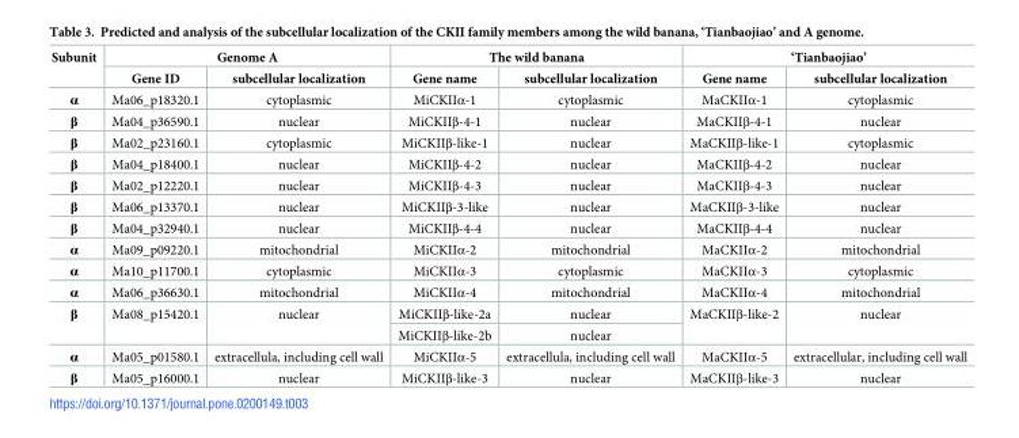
<table><thead><tr><td rowspan="2">Subunit</td><td colspan="2">Genome A</td><td colspan="2">The wild banana</td><td colspan="2">‘Tianbaojiao’</td></tr><tr><td>Gene ID</td><td>subcellular localization</td><td>Gene name</td><td>subcellular localization</td><td>Gene name</td><td>subcellular localization</td></tr></thead><tbody><tr><td>α</td><td>Ma06_p18320.1</td><td>cytoplasmic</td><td>MiCKIIα-1</td><td>cytoplasmic</td><td>MaCKIIα-1</td><td>cytoplasmic</td></tr><tr><td>β</td><td>Ma04_p36590.1</td><td>nuclear</td><td>MiCKIIβ-4-1</td><td>nuclear</td><td>MaCKIIβ-4-1</td><td>nuclear</td></tr><tr><td>β</td><td>Ma02_p23160.1</td><td>cytoplasmic</td><td>MiCKIIβ-like-1</td><td>nuclear</td><td>MaCKIIβ-like-1</td><td>cytoplasmic</td></tr><tr><td>β</td><td>Ma04_p18400.1</td><td>nuclear</td><td>MiCKIIβ-4-2</td><td>nuclear</td><td>MaCKIIβ-4-2</td><td>nuclear</td></tr><tr><td>β</td><td>Ma02_p12220.1</td><td>nuclear</td><td>MiCKIIβ-4-3</td><td>nuclear</td><td>MaCKIIβ-4-3</td><td>nuclear</td></tr><tr><td>β</td><td>Ma06_p13370.1</td><td>nuclear</td><td>MiCKIIβ-3-like</td><td>nuclear</td><td>MaCKIIβ-3-like</td><td>nuclear</td></tr><tr><td>β</td><td>Ma04_p32940.1</td><td>nuclear</td><td>MiCKIIβ-4-4</td><td>nuclear</td><td>MaCKIIβ-4-4</td><td>nuclear</td></tr><tr><td>α</td><td>Ma09_p09220.1</td><td>mitochondrial</td><td>MiCKIIα-2</td><td>mitochondrial</td><td>MaCKIIα-2</td><td>mitochondrial</td></tr><tr><td>α</td><td>Ma10_p11700.1</td><td>cytoplasmic</td><td>MiCKIIα-3</td><td>cytoplasmic</td><td>MaCKIIα-3</td><td>cytoplasmic</td></tr><tr><td>α</td><td>Ma06_p36630.1</td><td>mitochondrial</td><td>MiCKIIα-4</td><td>mitochondrial</td><td>MaCKIIα-4</td><td>mitochondrial</td></tr><tr><td rowspan="2">β</td><td rowspan="2">Ma08_p15420.1</td><td rowspan="2">nuclear</td><td>MiCKIIβ-like-2a</td><td>nuclear</td><td rowspan="2">MaCKIIβ-like-2</td><td rowspan="2">nuclear</td></tr><tr><td>MiCKIIβ-like-2b</td><td>nuclear</td></tr><tr><td>α</td><td>Ma05_p01580.1</td><td>extracellula, including cell wall</td><td>MiCKIIα-5</td><td>extracellula, including cell wall</td><td>MaCKIIα-5</td><td>extracellular, including cell wall</td></tr><tr><td>β</td><td>Ma05_p16000.1</td><td>nuclear</td><td>MiCKIIβ-like-3</td><td>nuclear</td><td>MaCKIIβ-like-3</td><td>nuclear</td></tr></tbody></table>